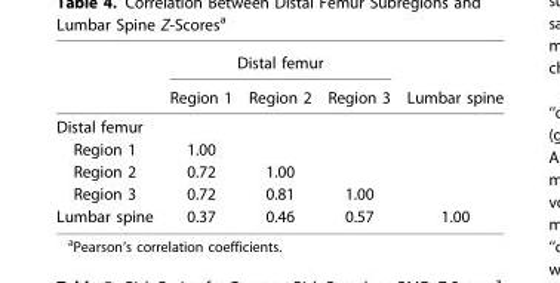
<table><thead><tr><td rowspan="2"></td><td colspan="3">Distal femur</td><td rowspan="2">Lumbar spine</td></tr><tr><td>Region 1</td><td>Region 2</td><td>Region 3</td></tr></thead><tbody><tr><td colspan="5">Distal femur</td></tr><tr><td>Region 1</td><td>1.00</td><td></td><td></td><td></td></tr><tr><td>Region 2</td><td>0.72</td><td>1.00</td><td></td><td></td></tr><tr><td>Region 3</td><td>0.72</td><td>0.81</td><td>1.00</td><td></td></tr><tr><td>Lumbar spine</td><td>0.37</td><td>0.46</td><td>0.57</td><td>1.00</td></tr></tbody></table>